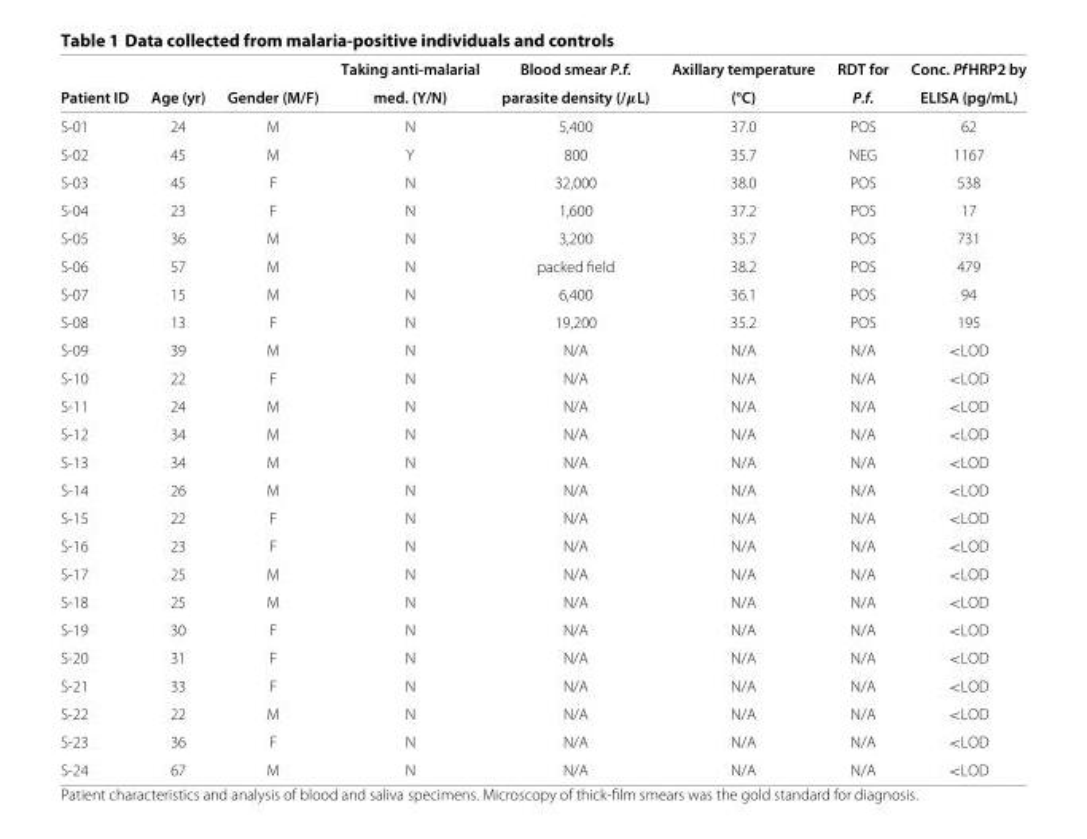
<table><thead><tr><td rowspan="2">Patient ID</td><td rowspan="2">Age (yr)</td><td rowspan="2">Gender (M/F)</td><td rowspan="2">Taking anti-malarial med. (Y/N)</td><td rowspan="2">Blood smear P.f. parasite density (/μL)</td><td rowspan="2">Axillary temperature (°C)</td><td rowspan="2">RDT for P.f.</td><td rowspan="2">Conc. PfHRP2 by ELISA (pg/mL)</td></tr><tr></tr></thead><tbody><tr><td>S-01</td><td>24</td><td>M</td><td>N</td><td>5,400</td><td>37.0</td><td>POS</td><td>62</td></tr><tr><td>S-02</td><td>45</td><td>M</td><td>Y</td><td>800</td><td>35.7</td><td>NEG</td><td>1167</td></tr><tr><td>S-03</td><td>45</td><td>F</td><td>N</td><td>32,000</td><td>38.0</td><td>POS</td><td>538</td></tr><tr><td>S-04</td><td>23</td><td>F</td><td>N</td><td>1,600</td><td>37.2</td><td>POS</td><td>17</td></tr><tr><td>S-05</td><td>36</td><td>M</td><td>N</td><td>3,200</td><td>35.7</td><td>POS</td><td>731</td></tr><tr><td>S-06</td><td>57</td><td>M</td><td>N</td><td>packed field</td><td>38.2</td><td>POS</td><td>479</td></tr><tr><td>S-07</td><td>15</td><td>M</td><td>N</td><td>6,400</td><td>36.1</td><td>POS</td><td>94</td></tr><tr><td>S-08</td><td>13</td><td>F</td><td>N</td><td>19,200</td><td>35.2</td><td>POS</td><td>195</td></tr><tr><td>S-09</td><td>39</td><td>M</td><td>N</td><td>N/A</td><td>N/A</td><td>N/A</td><td>&lt;LOD</td></tr><tr><td>S-10</td><td>22</td><td>F</td><td>N</td><td>N/A</td><td>N/A</td><td>N/A</td><td>&lt;LOD</td></tr><tr><td>S-11</td><td>24</td><td>M</td><td>N</td><td>N/A</td><td>N/A</td><td>N/A</td><td>&lt;LOD</td></tr><tr><td>S-12</td><td>34</td><td>M</td><td>N</td><td>N/A</td><td>N/A</td><td>N/A</td><td>&lt;LOD</td></tr><tr><td>S-13</td><td>34</td><td>M</td><td>N</td><td>N/A</td><td>N/A</td><td>N/A</td><td>&lt;LOD</td></tr><tr><td>S-14</td><td>26</td><td>M</td><td>N</td><td>N/A</td><td>N/A</td><td>N/A</td><td>&lt;LOD</td></tr><tr><td>S-15</td><td>22</td><td>F</td><td>N</td><td>N/A</td><td>N/A</td><td>N/A</td><td>&lt;LOD</td></tr><tr><td>S-16</td><td>23</td><td>F</td><td>N</td><td>N/A</td><td>N/A</td><td>N/A</td><td>&lt;LOD</td></tr><tr><td>S-17</td><td>25</td><td>M</td><td>N</td><td>N/A</td><td>N/A</td><td>N/A</td><td>&lt;LOD</td></tr><tr><td>S-18</td><td>25</td><td>M</td><td>N</td><td>N/A</td><td>N/A</td><td>N/A</td><td>&lt;LOD</td></tr><tr><td>S-19</td><td>30</td><td>F</td><td>N</td><td>N/A</td><td>N/A</td><td>N/A</td><td>&lt;LOD</td></tr><tr><td>S-20</td><td>31</td><td>F</td><td>N</td><td>N/A</td><td>N/A</td><td>N/A</td><td>&lt;LOD</td></tr><tr><td>S-21</td><td>33</td><td>F</td><td>N</td><td>N/A</td><td>N/A</td><td>N/A</td><td>&lt;LOD</td></tr><tr><td>S-22</td><td>22</td><td>M</td><td>N</td><td>N/A</td><td>N/A</td><td>N/A</td><td>&lt;LOD</td></tr><tr><td>S-23</td><td>36</td><td>F</td><td>N</td><td>N/A</td><td>N/A</td><td>N/A</td><td>&lt;LOD</td></tr><tr><td>S-24</td><td>67</td><td>M</td><td>N</td><td>N/A</td><td>N/A</td><td>N/A</td><td>&lt;LOD</td></tr></tbody></table>